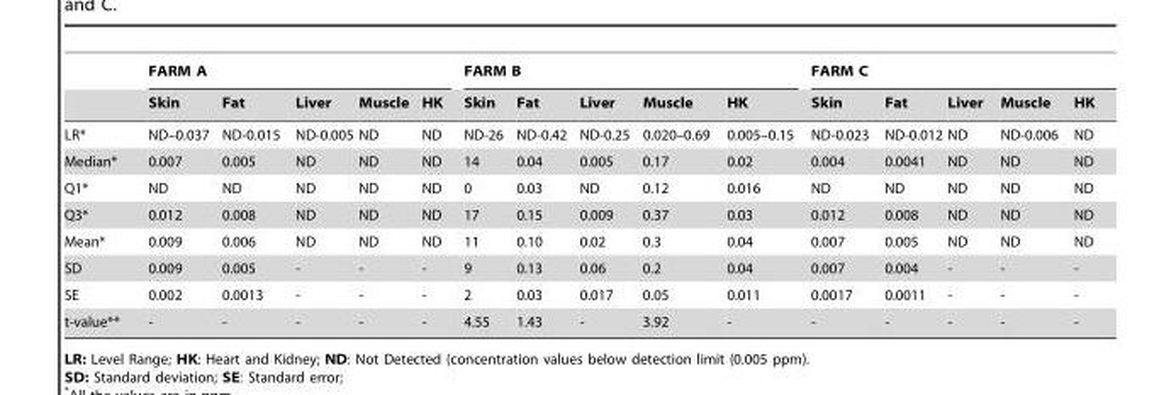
<table><thead><tr><td rowspan="2"></td><td colspan="5">FARM A</td><td colspan="5">FARM B</td><td colspan="5">FARM C</td></tr><tr><td>Skin</td><td>Fat</td><td>Liver</td><td>Muscle</td><td>HK</td><td>Skin</td><td>Fat</td><td>Liver</td><td>Muscle</td><td>HK</td><td>Skin</td><td>Fat</td><td>Liver</td><td>Muscle</td><td>HK</td></tr></thead><tbody><tr><td>LR*</td><td>ND–0.037</td><td>ND-0.015</td><td>ND-0.005</td><td>ND</td><td>ND</td><td>ND-26</td><td>ND-0.42</td><td>ND-0.25</td><td>0.020–0.69</td><td>0.005–0.15</td><td>ND-0.023</td><td>ND-0.012</td><td>ND</td><td>ND-0.006</td><td>ND</td></tr><tr><td>Median*</td><td>0.007</td><td>0.005</td><td>ND</td><td>ND</td><td>ND</td><td>14</td><td>0.04</td><td>0.005</td><td>0.17</td><td>0.02</td><td>0.004</td><td>0.0041</td><td>ND</td><td>ND</td><td>ND</td></tr><tr><td>Q1*</td><td>ND</td><td>ND</td><td>ND</td><td>ND</td><td>ND</td><td>0</td><td>0.03</td><td>ND</td><td>0.12</td><td>0.016</td><td>ND</td><td>ND</td><td>ND</td><td>ND</td><td>ND</td></tr><tr><td>Q3*</td><td>0.012</td><td>0.008</td><td>ND</td><td>ND</td><td>ND</td><td>17</td><td>0.15</td><td>0.009</td><td>0.37</td><td>0.03</td><td>0.012</td><td>0.008</td><td>ND</td><td>ND</td><td>ND</td></tr><tr><td>Mean*</td><td>0.009</td><td>0.006</td><td>ND</td><td>ND</td><td>ND</td><td>11</td><td>0.10</td><td>0.02</td><td>0.3</td><td>0.04</td><td>0.007</td><td>0.005</td><td>ND</td><td>ND</td><td>ND</td></tr><tr><td>SD</td><td>0.009</td><td>0.005</td><td>-</td><td>-</td><td>-</td><td>9</td><td>0.13</td><td>0.06</td><td>0.2</td><td>0.04</td><td>0.007</td><td>0.004</td><td>-</td><td>-</td><td>-</td></tr><tr><td>SE</td><td>0.002</td><td>0.0013</td><td>-</td><td>-</td><td>-</td><td>2</td><td>0.03</td><td>0.017</td><td>0.05</td><td>0.011</td><td>0.0017</td><td>0.0011</td><td>-</td><td>-</td><td>-</td></tr><tr><td>t-value**</td><td>-</td><td>-</td><td>-</td><td>-</td><td>-</td><td>4.55</td><td>1.43</td><td>-</td><td>3.92</td><td>-</td><td>-</td><td>-</td><td>-</td><td>-</td><td>-</td></tr></tbody></table>